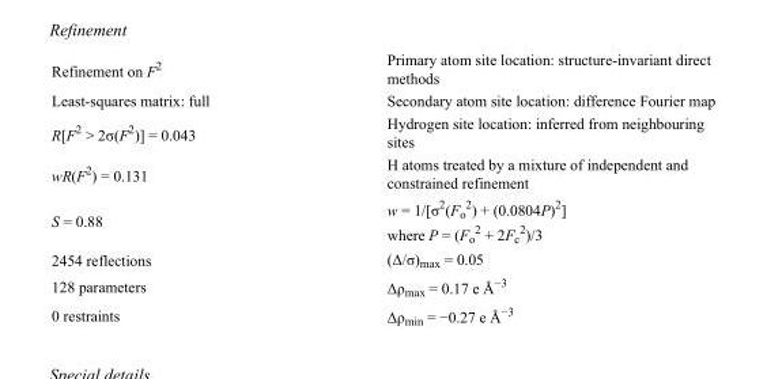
<table><tbody><tr><td>Refinement on F<sup>2</sup></td><td>Primary atom site location: structure-invariant direct methods</td></tr><tr><td>Least-squares matrix: full</td><td>Secondary atom site location: difference Fourier map</td></tr><tr><td>R[F<sup>2</sup> &gt; 2σ(F<sup>2</sup>)] = 0.043</td><td>Hydrogen site location: inferred from neighbouring sites</td></tr><tr><td>wR(F<sup>2</sup>) = 0.131</td><td>H atoms treated by a mixture of independent and constrained refinement</td></tr><tr><td>S = 0.88</td><td>w = 1/[σ<sup>2</sup>(F<sub>o</sub> <sup>2</sup>) + (0.0804P)<sup>2</sup>] where P = (F<sub>o</sub> <sup>2</sup> + 2F<sub>c</sub> <sup>2</sup>)/3</td></tr><tr><td>2454 reflections</td><td>(Δ/σ)<sub>max</sub> = 0.05</td></tr><tr><td>128 parameters</td><td>Δρ<sub>max</sub> = 0.17 e Å<sup>−3</sup></td></tr><tr><td>0 restraints</td><td>Δρ<sub>min</sub> = −0.27 e Å<sup>−3</sup></td></tr></tbody></table>